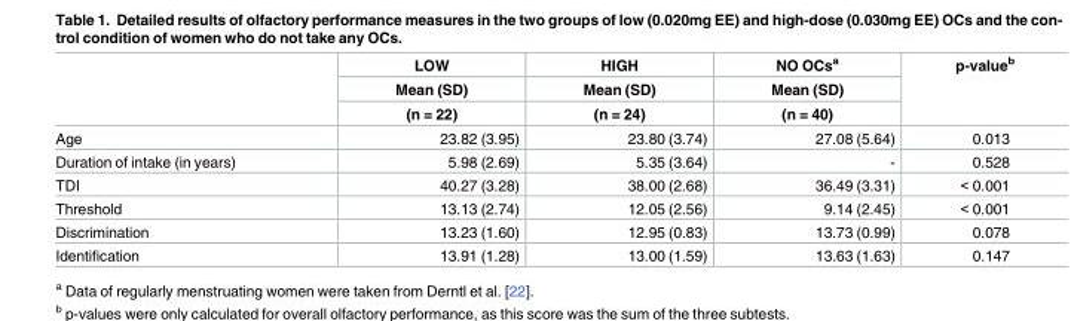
<table><thead><tr><td rowspan="3"></td><td rowspan="3">LOW Mean (SD) (n = 22)</td><td rowspan="3">HIGH Mean (SD) (n = 24)</td><td rowspan="3">NO OCs<sup>a</sup> Mean (SD) (n = 40)</td><td rowspan="3">p-value<sup>b</sup></td></tr><tr></tr><tr></tr></thead><tbody><tr><td>Age</td><td>23.82 (3.95)</td><td>23.80 (3.74)</td><td>27.08 (5.64)</td><td>0.013</td></tr><tr><td>Duration of intake (in years)</td><td>5.98 (2.69)</td><td>5.35 (3.64)</td><td>-</td><td>0.528</td></tr><tr><td>TDI</td><td>40.27 (3.28)</td><td>38.00 (2.68)</td><td>36.49 (3.31)</td><td>&lt; 0.001</td></tr><tr><td>Threshold</td><td>13.13 (2.74)</td><td>12.05 (2.56)</td><td>9.14 (2.45)</td><td>&lt; 0.001</td></tr><tr><td>Discrimination</td><td>13.23 (1.60)</td><td>12.95 (0.83)</td><td>13.73 (0.99)</td><td>0.078</td></tr><tr><td>Identification</td><td>13.91 (1.28)</td><td>13.00 (1.59)</td><td>13.63 (1.63)</td><td>0.147</td></tr></tbody></table>